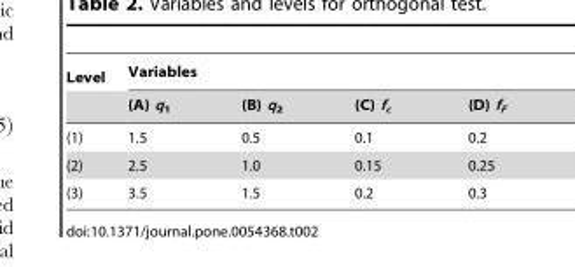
<table><thead><tr><td rowspan="2">Level</td><td colspan="4">Variables</td></tr><tr><td>(A) q<sub>1</sub></td><td>(B) q<sub>2</sub></td><td>(C) f<sub>c</sub></td><td>(D) f<sub>F</sub></td></tr></thead><tbody><tr><td>(1)</td><td>1.5</td><td>0.5</td><td>0.1</td><td>0.2</td></tr><tr><td>(2)</td><td>2.5</td><td>1.0</td><td>0.15</td><td>0.25</td></tr><tr><td>(3)</td><td>3.5</td><td>1.5</td><td>0.2</td><td>0.3</td></tr></tbody></table>